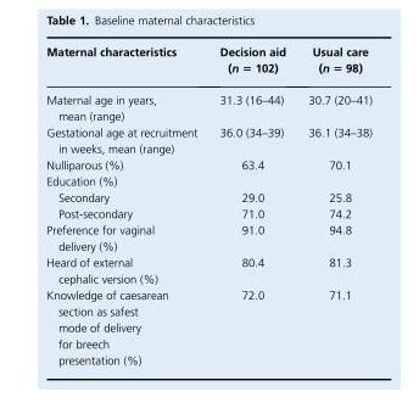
<table><thead><tr><td>Maternal characteristics</td><td>Decision aid (n = 102)</td><td>Usual care (n = 98)</td></tr></thead><tbody><tr><td>Maternal age in years, mean (range)</td><td>31.3 (16–44)</td><td>30.7 (20–41)</td></tr><tr><td>Gestational age at recruitment in weeks, mean (range)</td><td>36.0 (34–39)</td><td>36.1 (34–38)</td></tr><tr><td>Nulliparous (%)</td><td>63.4</td><td>70.1</td></tr><tr><td colspan="3">Education (%)</td></tr><tr><td>Secondary</td><td>29.0</td><td>25.8</td></tr><tr><td>Post-secondary</td><td>71.0</td><td>74.2</td></tr><tr><td>Preference for vaginal delivery (%)</td><td>91.0</td><td>94.8</td></tr><tr><td>Heard of external cephalic version (%)</td><td>80.4</td><td>81.3</td></tr><tr><td>Knowledge of caesarean section as safest mode of delivery for breech presentation (%)</td><td>72.0</td><td>71.1</td></tr></tbody></table>